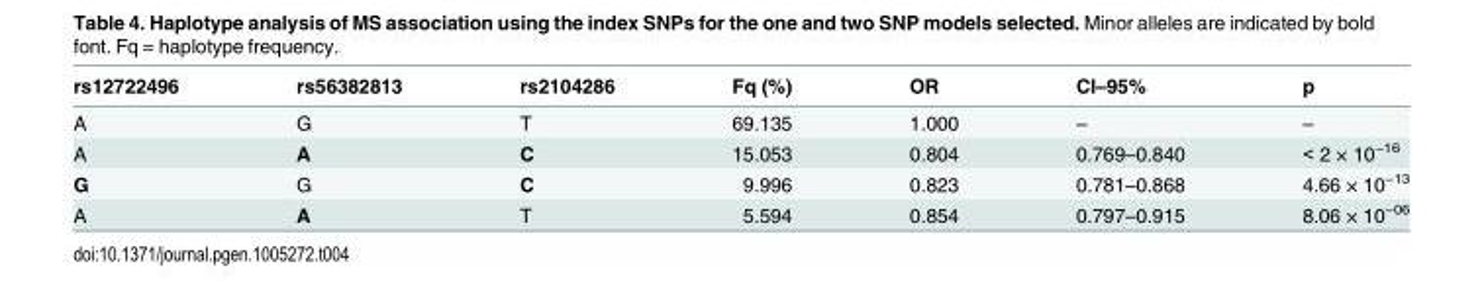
<table><thead><tr><td>rs12722496</td><td>rs56382813</td><td>rs2104286</td><td>Fq (%)</td><td>OR</td><td>CI–95%</td><td>p</td></tr></thead><tbody><tr><td>A</td><td>G</td><td>T</td><td>69.135</td><td>1.000</td><td>–</td><td>–</td></tr><tr><td>A</td><td>A</td><td>C</td><td>15.053</td><td>0.804</td><td>0.769–0.840</td><td>&lt; 2 × 10<sup>−16</sup></td></tr><tr><td>G</td><td>G</td><td>C</td><td>9.996</td><td>0.823</td><td>0.781–0.868</td><td>4.66 × 10<sup>−13</sup></td></tr><tr><td>A</td><td>A</td><td>T</td><td>5.594</td><td>0.854</td><td>0.797–0.915</td><td>8.06 × 10<sup>−06</sup></td></tr></tbody></table>